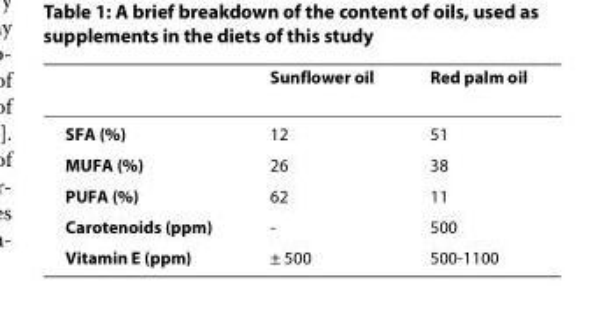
<table><thead><tr><td></td><td>Sunflower oil</td><td>Red palm oil</td></tr></thead><tbody><tr><td>SFA (%)</td><td>12</td><td>51</td></tr><tr><td>MUFA (%)</td><td>26</td><td>38</td></tr><tr><td>PUFA (%)</td><td>62</td><td>11</td></tr><tr><td>Carotenoids (ppm)</td><td>-</td><td>500</td></tr><tr><td>Vitamin E (ppm)</td><td>± 500</td><td>500-1100</td></tr></tbody></table>